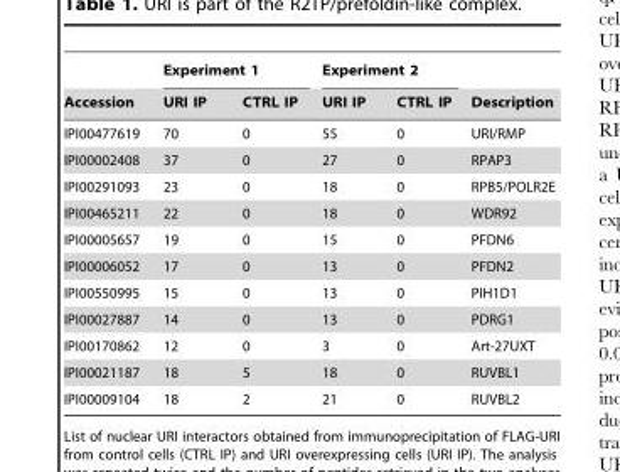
<table><thead><tr><td rowspan="2">Accession</td><td colspan="2">Experiment 1</td><td colspan="2">Experiment 2</td><td rowspan="2">Description</td></tr><tr><td>URI IP</td><td>CTRL IP</td><td>URI IP</td><td>CTRL IP</td></tr></thead><tbody><tr><td>IPI00477619</td><td>70</td><td>0</td><td>55</td><td>0</td><td>URI/RMP</td></tr><tr><td>IPI00002408</td><td>37</td><td>0</td><td>27</td><td>0</td><td>RPAP3</td></tr><tr><td>IPI00291093</td><td>23</td><td>0</td><td>18</td><td>0</td><td>RPB5/POLR2E</td></tr><tr><td>IPI00465211</td><td>22</td><td>0</td><td>18</td><td>0</td><td>WDR92</td></tr><tr><td>IPI00005657</td><td>19</td><td>0</td><td>15</td><td>0</td><td>PFDN6</td></tr><tr><td>IPI00006052</td><td>17</td><td>0</td><td>13</td><td>0</td><td>PFDN2</td></tr><tr><td>IPI00550995</td><td>15</td><td>0</td><td>13</td><td>0</td><td>PIH1D1</td></tr><tr><td>IPI00027887</td><td>14</td><td>0</td><td>13</td><td>0</td><td>PDRG1</td></tr><tr><td>IPI00170862</td><td>12</td><td>0</td><td>3</td><td>0</td><td>Art-27UXT</td></tr><tr><td>IPI00021187</td><td>18</td><td>5</td><td>18</td><td>0</td><td>RUVBL1</td></tr><tr><td>IPI00009104</td><td>18</td><td>2</td><td>21</td><td>0</td><td>RUVBL2</td></tr></tbody></table>